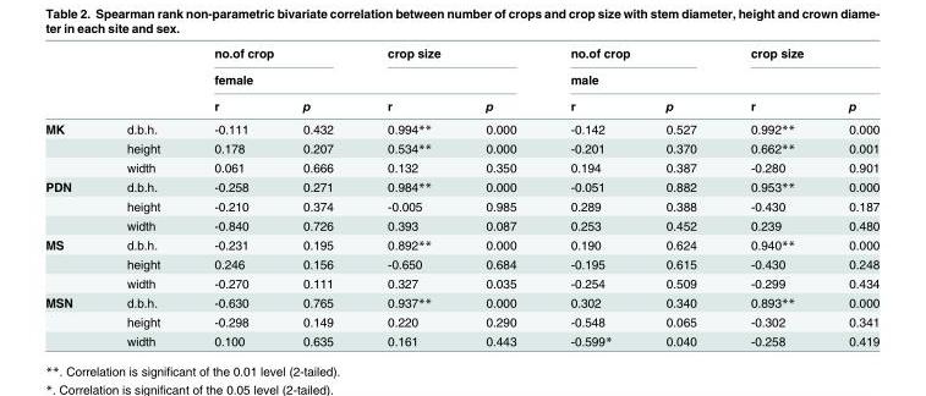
<table><thead><tr><td rowspan="3"></td><td rowspan="3"></td><td colspan="2">no.of crop</td><td colspan="2">crop size</td><td colspan="2">no.of crop</td><td colspan="2">crop size</td></tr><tr><td colspan="4">female</td><td colspan="4">male</td></tr><tr><td>r</td><td>p</td><td>r</td><td>p</td><td>r</td><td>p</td><td>r</td><td>p</td></tr></thead><tbody><tr><td rowspan="3">MK</td><td>d.b.h.</td><td>-0.111</td><td>0.432</td><td>0.994**</td><td>0.000</td><td>-0.142</td><td>0.527</td><td>0.992**</td><td>0.000</td></tr><tr><td>height</td><td>0.178</td><td>0.207</td><td>0.534**</td><td>0.000</td><td>-0.201</td><td>0.370</td><td>0.662**</td><td>0.001</td></tr><tr><td>width</td><td>0.061</td><td>0.666</td><td>0.132</td><td>0.350</td><td>0.194</td><td>0.387</td><td>-0.280</td><td>0.901</td></tr><tr><td rowspan="3">PDN</td><td>d.b.h.</td><td>-0.258</td><td>0.271</td><td>0.984**</td><td>0.000</td><td>-0.051</td><td>0.882</td><td>0.953**</td><td>0.000</td></tr><tr><td>height</td><td>-0.210</td><td>0.374</td><td>-0.005</td><td>0.985</td><td>0.289</td><td>0.388</td><td>-0.430</td><td>0.187</td></tr><tr><td>width</td><td>-0.840</td><td>0.726</td><td>0.393</td><td>0.087</td><td>0.253</td><td>0.452</td><td>0.239</td><td>0.480</td></tr><tr><td rowspan="3">MS</td><td>d.b.h.</td><td>-0.231</td><td>0.195</td><td>0.892**</td><td>0.000</td><td>0.190</td><td>0.624</td><td>0.940**</td><td>0.000</td></tr><tr><td>height</td><td>0.246</td><td>0.156</td><td>-0.650</td><td>0.684</td><td>-0.195</td><td>0.615</td><td>-0.430</td><td>0.248</td></tr><tr><td>width</td><td>-0.270</td><td>0.111</td><td>0.327</td><td>0.035</td><td>-0.254</td><td>0.509</td><td>-0.299</td><td>0.434</td></tr><tr><td rowspan="3">MSN</td><td>d.b.h.</td><td>-0.630</td><td>0.765</td><td>0.937**</td><td>0.000</td><td>0.302</td><td>0.340</td><td>0.893**</td><td>0.000</td></tr><tr><td>height</td><td>-0.298</td><td>0.149</td><td>0.220</td><td>0.290</td><td>-0.548</td><td>0.065</td><td>-0.302</td><td>0.341</td></tr><tr><td>width</td><td>0.100</td><td>0.635</td><td>0.161</td><td>0.443</td><td>-0.599*</td><td>0.040</td><td>-0.258</td><td>0.419</td></tr></tbody></table>